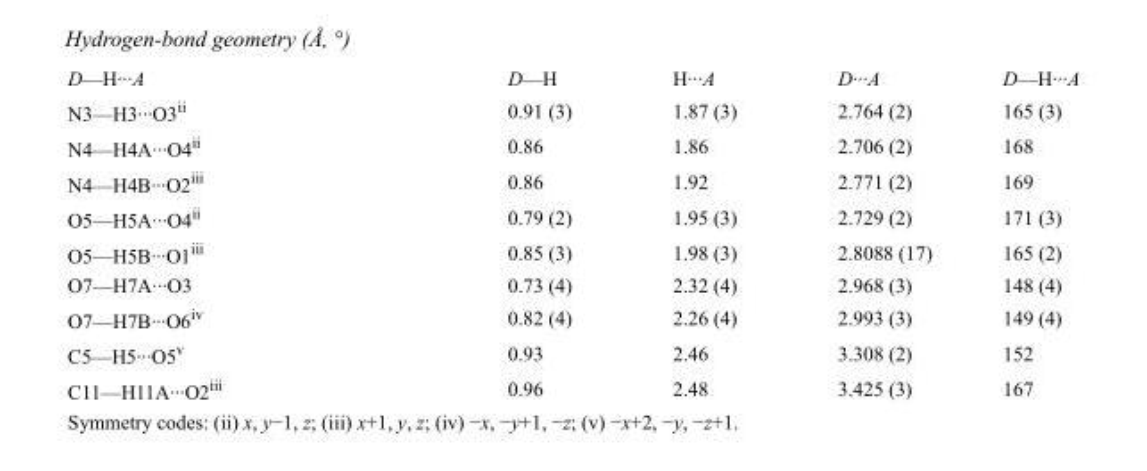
<table><tbody><tr><td>D—H···A</td><td>D—H</td><td>H···A</td><td>D···A</td><td>D—H···A</td></tr><tr><td>N3—H3···O3<sup>ii</sup></td><td>0.91 (3)</td><td>1.87 (3)</td><td>2.764 (2)</td><td>165 (3)</td></tr><tr><td>N4—H4A···O4<sup>ii</sup></td><td>0.86</td><td>1.86</td><td>2.706 (2)</td><td>168</td></tr><tr><td>N4—H4B···O2<sup>iii</sup></td><td>0.86</td><td>1.92</td><td>2.771 (2)</td><td>169</td></tr><tr><td>O5—H5A···O4<sup>ii</sup></td><td>0.79 (2)</td><td>1.95 (3)</td><td>2.729 (2)</td><td>171 (3)</td></tr><tr><td>O5—H5B···O1<sup>iii</sup></td><td>0.85 (3)</td><td>1.98 (3)</td><td>2.8088 (17)</td><td>165 (2)</td></tr><tr><td>O7—H7A···O3</td><td>0.73 (4)</td><td>2.32 (4)</td><td>2.968 (3)</td><td>148 (4)</td></tr><tr><td>O7—H7B···O6<sup>iv</sup></td><td>0.82 (4)</td><td>2.26 (4)</td><td>2.993 (3)</td><td>149 (4)</td></tr><tr><td>C5—H5···O5<sup>v</sup></td><td>0.93</td><td>2.46</td><td>3.308 (2)</td><td>152</td></tr><tr><td>C11—H11A···O2<sup>iii</sup></td><td>0.96</td><td>2.48</td><td>3.425 (3)</td><td>167</td></tr></tbody></table>